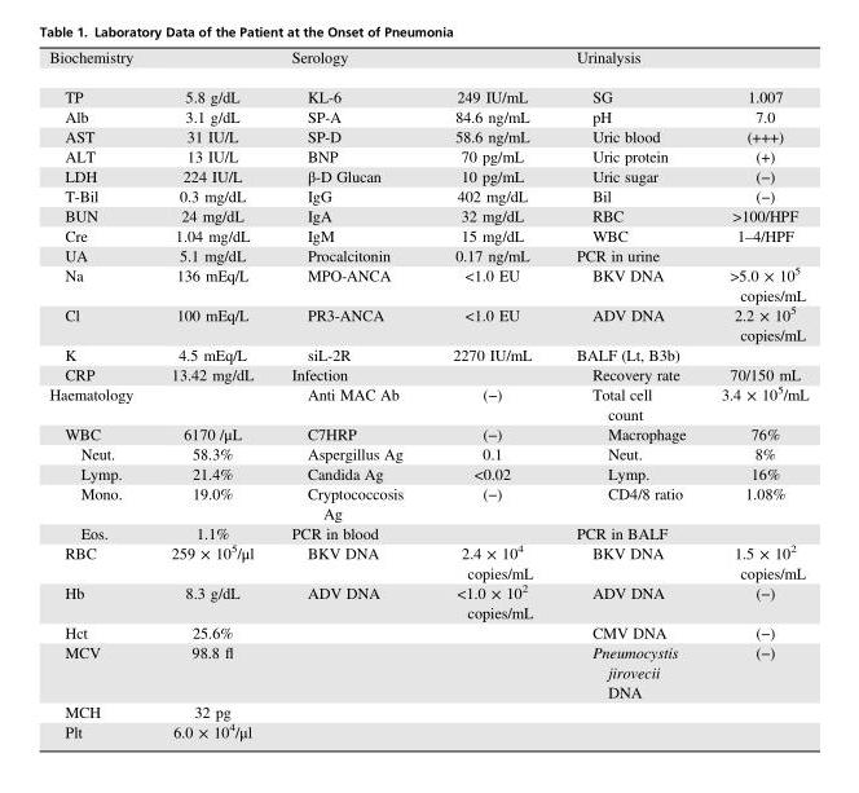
<table><tbody><tr><td>Biochemistry</td><td></td><td>Serology</td><td></td><td>Urinalysis</td><td></td></tr><tr><td>TP</td><td>5.8 g/dL</td><td>KL-6</td><td>249 IU/mL</td><td>SG</td><td>1.007</td></tr><tr><td>Alb</td><td>3.1 g/dL</td><td>SP-A</td><td>84.6 ng/mL</td><td>pH</td><td>7.0</td></tr><tr><td>AST</td><td>31 IU/L</td><td>SP-D</td><td>58.6 ng/mL</td><td>Uric blood</td><td>(+++)</td></tr><tr><td>ALT</td><td>13 IU/L</td><td>BNP</td><td>70 pg/mL</td><td>Uric protein</td><td>(+)</td></tr><tr><td>LDH</td><td>224 IU/L</td><td>β-D Glucan</td><td>10 pg/mL</td><td>Uric sugar</td><td>(−)</td></tr><tr><td>T-Bil</td><td>0.3 mg/dL</td><td>IgG</td><td>402 mg/dL</td><td>Bil</td><td>(−)</td></tr><tr><td>BUN</td><td>24 mg/dL</td><td>IgA</td><td>32 mg/dL</td><td>RBC</td><td>&gt;100/HPF</td></tr><tr><td>Cre</td><td>1.04 mg/dL</td><td>IgM</td><td>15 mg/dL</td><td>WBC</td><td>1–4/HPF</td></tr><tr><td>UA</td><td>5.1 mg/dL</td><td>Procalcitonin</td><td>0.17 ng/mL</td><td>PCR in urine</td><td></td></tr><tr><td>Na</td><td>136 mEq/L</td><td>MPO-ANCA</td><td>&lt;1.0 EU</td><td>BKV DNA</td><td>&gt;5.0 × 10<sup>5</sup> copies/mL</td></tr><tr><td>Cl</td><td>100 mEq/L</td><td>PR3-ANCA</td><td>&lt;1.0 EU</td><td>ADV DNA</td><td>2.2 × 10<sup>5</sup> copies/mL</td></tr><tr><td>K</td><td>4.5 mEq/L</td><td>siL-2R</td><td>2270 IU/mL</td><td>BALF (Lt, B3b)</td><td></td></tr><tr><td>CRP</td><td>13.42 mg/dL</td><td>Infection</td><td></td><td>Recovery rate</td><td>70/150 mL</td></tr><tr><td>Haematology</td><td></td><td>Anti MAC Ab</td><td>(−)</td><td>Total cell count</td><td>3.4 × 10<sup>5</sup>/mL</td></tr><tr><td>WBC</td><td>6170 /μL</td><td>C7HRP</td><td>(−)</td><td>Macrophage</td><td>76%</td></tr><tr><td>Neut.</td><td>58.3%</td><td>Aspergillus Ag</td><td>0.1</td><td>Neut.</td><td>8%</td></tr><tr><td>Lymp.</td><td>21.4%</td><td>Candida Ag</td><td>&lt;0.02</td><td>Lymp.</td><td>16%</td></tr><tr><td>Mono.</td><td>19.0%</td><td>Cryptococcosis Ag</td><td>(−)</td><td>CD4/8 ratio</td><td>1.08%</td></tr><tr><td>Eos.</td><td>1.1%</td><td>PCR in blood</td><td></td><td>PCR in BALF</td><td></td></tr><tr><td>RBC</td><td>259 × 10<sup>5</sup>/μl</td><td>BKV DNA</td><td>2.4 × 10<sup>4</sup> copies/mL</td><td>BKV DNA</td><td>1.5 × 10<sup>2</sup> copies/mL</td></tr><tr><td>Hb</td><td>8.3 g/dL</td><td>ADV DNA</td><td>&lt;1.0 × 10<sup>2</sup> copies/mL</td><td>ADV DNA</td><td>(−)</td></tr><tr><td>Hct</td><td>25.6%</td><td></td><td></td><td>CMV DNA</td><td>(−)</td></tr><tr><td>MCV</td><td>98.8 fl</td><td></td><td></td><td>Pneumocystis jirovecii DNA</td><td>(−)</td></tr><tr><td>MCH</td><td>32 pg</td><td></td><td></td><td></td><td></td></tr><tr><td>Plt</td><td>6.0 × 10<sup>4</sup>/μl</td><td></td><td></td><td></td><td></td></tr></tbody></table>